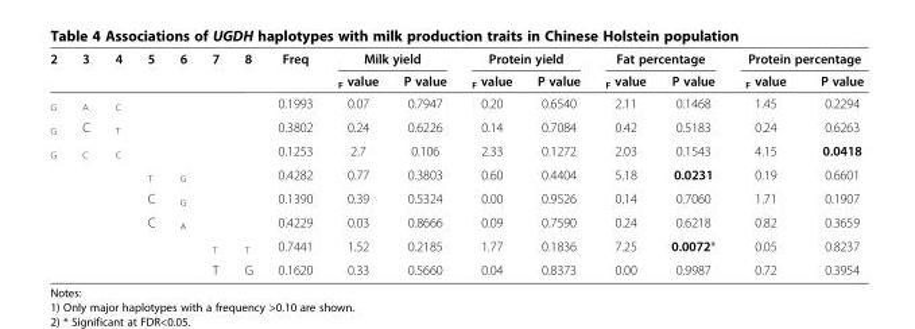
<table><thead><tr><td rowspan="2">2</td><td rowspan="2">3</td><td rowspan="2">4</td><td rowspan="2">5</td><td rowspan="2">6</td><td rowspan="2">7</td><td rowspan="2">8</td><td rowspan="2">Freq</td><td colspan="2">Milk yield</td><td colspan="2">Protein yield</td><td colspan="2">Fat percentage</td><td colspan="2">Protein percentage</td></tr><tr><td><sub>F</sub> value</td><td>P value</td><td><sub>F</sub> value</td><td>P value</td><td><sub>F</sub> value</td><td>P value</td><td><sub>F</sub> value</td><td>P value</td></tr></thead><tbody><tr><td><sub>G</sub></td><td><sub>A</sub></td><td><sub>C</sub></td><td></td><td></td><td></td><td></td><td>0.1993</td><td>0.07</td><td>0.7947</td><td>0.20</td><td>0.6540</td><td>2.11</td><td>0.1468</td><td>1.45</td><td>0.2294</td></tr><tr><td><sub>G</sub></td><td>C</td><td><sub>T</sub></td><td></td><td></td><td></td><td></td><td>0.3802</td><td>0.24</td><td>0.6226</td><td>0.14</td><td>0.7084</td><td>0.42</td><td>0.5183</td><td>0.24</td><td>0.6263</td></tr><tr><td rowspan="6"><sub>G</sub></td><td><sub>C</sub></td><td><sub>C</sub></td><td></td><td></td><td></td><td></td><td>0.1253</td><td>2.7</td><td>0.106</td><td>2.33</td><td>0.1272</td><td>2.03</td><td>0.1543</td><td>4.15</td><td>0.0418</td></tr><tr><td></td><td></td><td><sub>T</sub></td><td><sub>G</sub></td><td></td><td></td><td>0.4282</td><td>0.77</td><td>0.3803</td><td>0.60</td><td>0.4404</td><td>5.18</td><td>0.0231</td><td>0.19</td><td>0.6601</td></tr><tr><td></td><td></td><td>C</td><td><sub>G</sub></td><td></td><td></td><td>0.1390</td><td>0.39</td><td>0.5324</td><td>0.00</td><td>0.9526</td><td>0.14</td><td>0.7060</td><td>1.71</td><td>0.1907</td></tr><tr><td></td><td></td><td>C</td><td><sub>A</sub></td><td></td><td></td><td>0.4229</td><td>0.03</td><td>0.8666</td><td>0.09</td><td>0.7590</td><td>0.24</td><td>0.6218</td><td>0.82</td><td>0.3659</td></tr><tr><td></td><td></td><td></td><td></td><td><sub>T</sub></td><td><sub>T</sub></td><td>0.7441</td><td>1.52</td><td>0.2185</td><td>1.77</td><td>0.1836</td><td>7.25</td><td>0.0072*</td><td>0.05</td><td>0.8237</td></tr><tr><td></td><td></td><td></td><td></td><td>T</td><td>G</td><td>0.1620</td><td>0.33</td><td>0.5660</td><td>0.04</td><td>0.8373</td><td>0.00</td><td>0.9987</td><td>0.72</td><td>0.3954</td></tr></tbody></table>